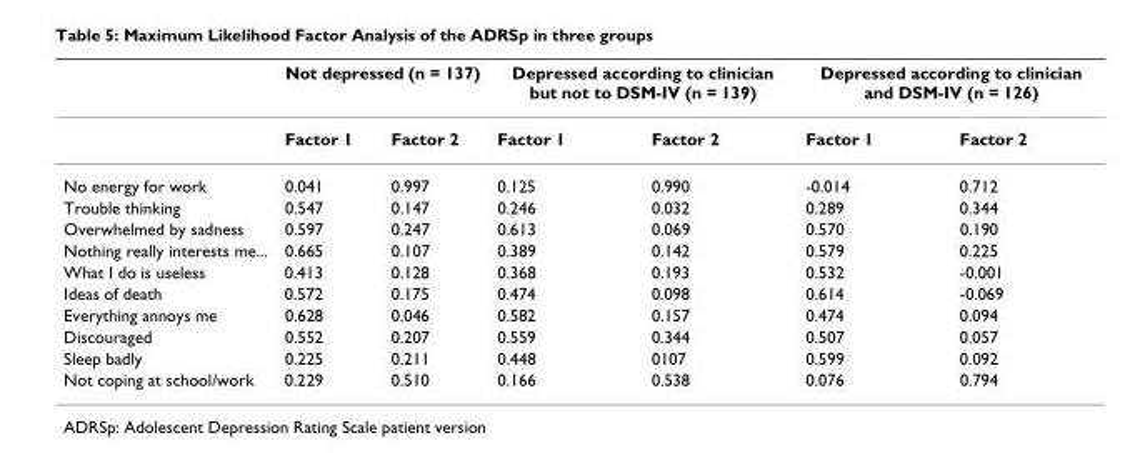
<table><thead><tr><td rowspan="2"></td><td colspan="2">Not depressed (n = 137)</td><td colspan="2">Depressed according to clinician but not to DSM-IV (n = 139)</td><td colspan="2">Depressed according to clinician and DSM-IV (n = 126)</td></tr><tr><td>Factor 1</td><td>Factor 2</td><td>Factor 1</td><td>Factor 2</td><td>Factor 1</td><td>Factor 2</td></tr></thead><tbody><tr><td>No energy for work</td><td>0.041</td><td>0.997</td><td>0.125</td><td>0.990</td><td>-0.014</td><td>0.712</td></tr><tr><td>Trouble thinking</td><td>0.547</td><td>0.147</td><td>0.246</td><td>0.032</td><td>0.289</td><td>0.344</td></tr><tr><td>Overwhelmed by sadness</td><td>0.597</td><td>0.247</td><td>0.613</td><td>0.069</td><td>0.570</td><td>0.190</td></tr><tr><td>Nothing really interests me...</td><td>0.665</td><td>0.107</td><td>0.389</td><td>0.142</td><td>0.579</td><td>0.225</td></tr><tr><td>What I do is useless</td><td>0.413</td><td>0.128</td><td>0.368</td><td>0.193</td><td>0.532</td><td>-0.001</td></tr><tr><td>Ideas of death</td><td>0.572</td><td>0.175</td><td>0.474</td><td>0.098</td><td>0.614</td><td>-0.069</td></tr><tr><td>Everything annoys me</td><td>0.628</td><td>0.046</td><td>0.582</td><td>0.157</td><td>0.474</td><td>0.094</td></tr><tr><td>Discouraged</td><td>0.552</td><td>0.207</td><td>0.559</td><td>0.344</td><td>0.507</td><td>0.057</td></tr><tr><td>Sleep badly</td><td>0.225</td><td>0.211</td><td>0.448</td><td>0107</td><td>0.599</td><td>0.092</td></tr><tr><td>Not coping at school/work</td><td>0.229</td><td>0.510</td><td>0.166</td><td>0.538</td><td>0.076</td><td>0.794</td></tr></tbody></table>